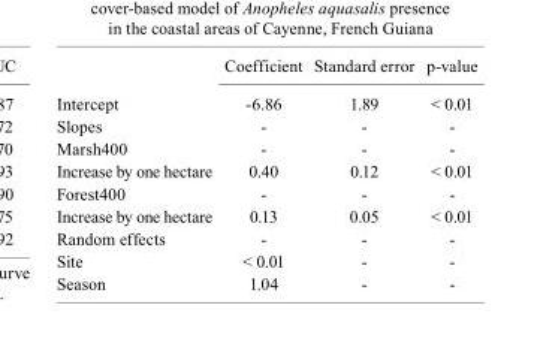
<table><thead><tr><td></td><td>Coefficient</td><td>Standard error</td><td>p-value</td></tr></thead><tbody><tr><td>Intercept</td><td>-6.86</td><td>1.89</td><td>&lt; 0.01</td></tr><tr><td>Slopes</td><td>-</td><td>-</td><td>-</td></tr><tr><td>Marsh400</td><td>-</td><td>-</td><td>-</td></tr><tr><td>Increase by one hectare</td><td>0.40</td><td>0.12</td><td>&lt; 0.01</td></tr><tr><td>Forest400</td><td>-</td><td>-</td><td>-</td></tr><tr><td>Increase by one hectare</td><td>0.13</td><td>0.05</td><td>&lt; 0.01</td></tr><tr><td>Random effects</td><td>-</td><td>-</td><td>-</td></tr><tr><td>Site</td><td>&lt; 0.01</td><td>-</td><td>-</td></tr><tr><td>Season</td><td>1.04</td><td>-</td><td>-</td></tr></tbody></table>